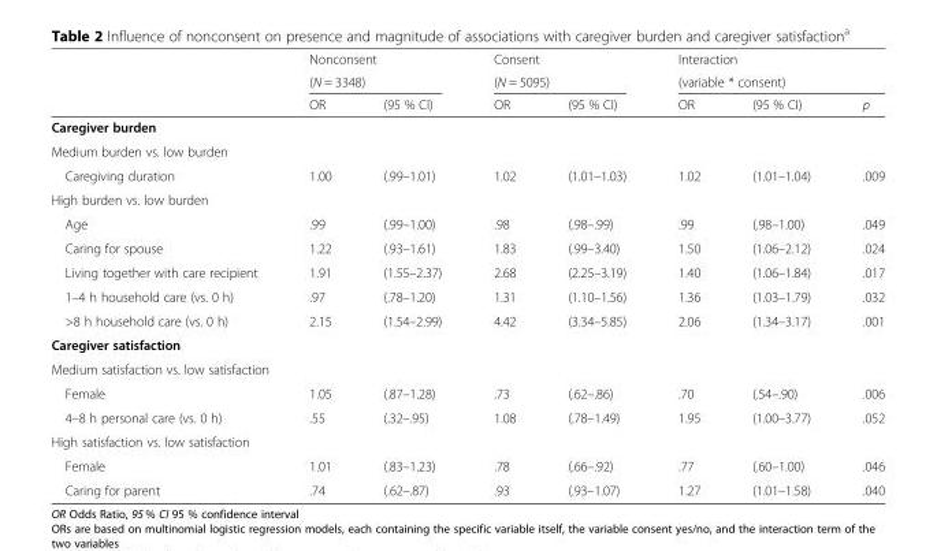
<table><thead><tr><td rowspan="3"></td><td rowspan="2" colspan="2">Nonconsent (N = 3348)</td><td rowspan="2" colspan="2">Consent (N = 5095)</td><td rowspan="2" colspan="3">Interaction (variable * consent)</td></tr><tr></tr><tr><td>OR</td><td>(95 % CI)</td><td>OR</td><td>(95 % CI)</td><td>OR</td><td>(95 % CI)</td><td>p</td></tr></thead><tbody><tr><td colspan="8">Caregiver burden</td></tr><tr><td colspan="8">Medium burden vs. low burden</td></tr><tr><td>Caregiving duration</td><td>1.00</td><td>(.99–1.01)</td><td>1.02</td><td>(1.01–1.03)</td><td>1.02</td><td>(1.01–1.04)</td><td>.009</td></tr><tr><td colspan="8">High burden vs. low burden</td></tr><tr><td>Age</td><td>.99</td><td>(.99–1.00)</td><td>.98</td><td>(.98–.99)</td><td>.99</td><td>(.98–1.00)</td><td>.049</td></tr><tr><td>Caring for spouse</td><td>1.22</td><td>(.93–1.61)</td><td>1.83</td><td>(.99–3.40)</td><td>1.50</td><td>(1.06–2.12)</td><td>.024</td></tr><tr><td>Living together with care recipient</td><td>1.91</td><td>(1.55–2.37)</td><td>2.68</td><td>(2.25–3.19)</td><td>1.40</td><td>(1.06–1.84)</td><td>.017</td></tr><tr><td>1–4 h household care (vs. 0 h)</td><td>.97</td><td>(.78–1.20)</td><td>1.31</td><td>(1.10–1.56)</td><td>1.36</td><td>(1.03–1.79)</td><td>.032</td></tr><tr><td>&gt;8 h household care (vs. 0 h)</td><td>2.15</td><td>(1.54–2.99)</td><td>4.42</td><td>(3.34–5.85)</td><td>2.06</td><td>(1.34–3.17)</td><td>.001</td></tr><tr><td colspan="8">Caregiver satisfaction</td></tr><tr><td colspan="8">Medium satisfaction vs. low satisfaction</td></tr><tr><td>Female</td><td>1.05</td><td>(.87–1.28)</td><td>.73</td><td>(.62–.86)</td><td>.70</td><td>(.54–.90)</td><td>.006</td></tr><tr><td>4–8 h personal care (vs. 0 h)</td><td>.55</td><td>(.32–.95)</td><td>1.08</td><td>(.78–1.49)</td><td>1.95</td><td>(1.00–3.77)</td><td>.052</td></tr><tr><td colspan="8">High satisfaction vs. low satisfaction</td></tr><tr><td>Female</td><td>1.01</td><td>(.83–1.23)</td><td>.78</td><td>(.66–.92)</td><td>.77</td><td>(.60–1.00)</td><td>.046</td></tr><tr><td>Caring for parent</td><td>.74</td><td>(.62–.87)</td><td>.93</td><td>(.93–1.07)</td><td>1.27</td><td>(1.01–1.58)</td><td>.040</td></tr></tbody></table>